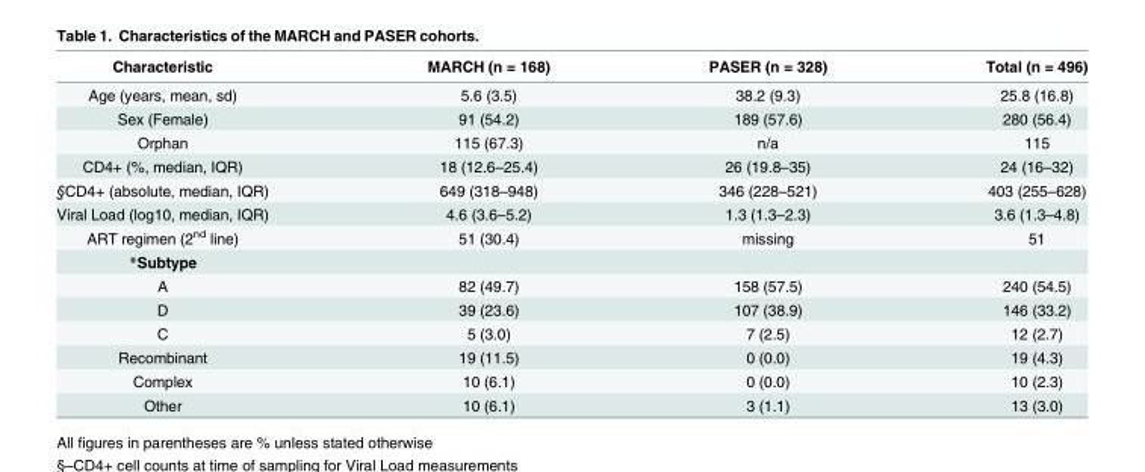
<table><thead><tr><td>Characteristic</td><td>MARCH (n = 168)</td><td>PASER (n = 328)</td><td>Total (n = 496)</td></tr></thead><tbody><tr><td>Age (years, mean, sd)</td><td>5.6 (3.5)</td><td>38.2 (9.3)</td><td>25.8 (16.8)</td></tr><tr><td>Sex (Female)</td><td>91 (54.2)</td><td>189 (57.6)</td><td>280 (56.4)</td></tr><tr><td>Orphan</td><td>115 (67.3)</td><td>n/a</td><td>115</td></tr><tr><td>CD4+ (%, median, IQR)</td><td>18 (12.6–25.4)</td><td>26 (19.8–35)</td><td>24 (16–32)</td></tr><tr><td>§CD4+ (absolute, median, IQR)</td><td>649 (318–948)</td><td>346 (228–521)</td><td>403 (255–628)</td></tr><tr><td>Viral Load (log10, median, IQR)</td><td>4.6 (3.6–5.2)</td><td>1.3 (1.3–2.3)</td><td>3.6 (1.3–4.8)</td></tr><tr><td>ART regimen (2<sup>nd</sup> line)</td><td>51 (30.4)</td><td>missing</td><td>51</td></tr><tr><td colspan="4">*Subtype</td></tr><tr><td>A</td><td>82 (49.7)</td><td>158 (57.5)</td><td>240 (54.5)</td></tr><tr><td>D</td><td>39 (23.6)</td><td>107 (38.9)</td><td>146 (33.2)</td></tr><tr><td>C</td><td>5 (3.0)</td><td>7 (2.5)</td><td>12 (2.7)</td></tr><tr><td>Recombinant</td><td>19 (11.5)</td><td>0 (0.0)</td><td>19 (4.3)</td></tr><tr><td>Complex</td><td>10 (6.1)</td><td>0 (0.0)</td><td>10 (2.3)</td></tr><tr><td>Other</td><td>10 (6.1)</td><td>3 (1.1)</td><td>13 (3.0)</td></tr></tbody></table>